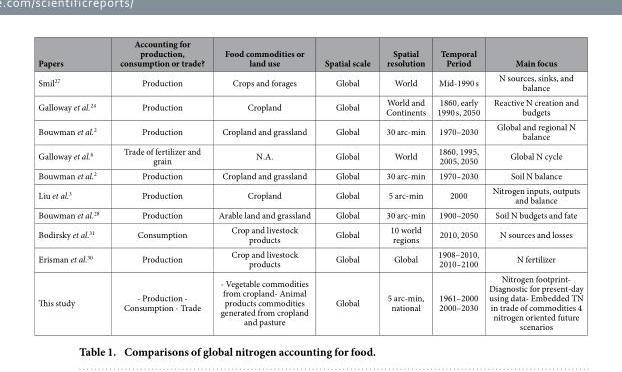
<table><thead><tr><td>Papers</td><td>Accounting for production, consumption or trade?</td><td>Food commodities or land use</td><td>Spatial scale</td><td>Spatial resolution</td><td>Temporal Period</td><td>Main focus</td></tr></thead><tbody><tr><td>Smil<sup>27</sup></td><td>Production</td><td>Crops and forages</td><td>Global</td><td>World</td><td>Mid-1990 s</td><td>N sources, sinks, and balance</td></tr><tr><td>Galloway et al.<sup>24</sup></td><td>Production</td><td>Cropland</td><td>Global</td><td>World and Continents</td><td>1860, early 1990 s, 2050</td><td>Reactive N creation and budgets</td></tr><tr><td>Bouwman et al.<sup>2</sup></td><td>Production</td><td>Cropland and grassland</td><td>Global</td><td>30 arc-min</td><td>1970–2030</td><td>Global and regional N balance</td></tr><tr><td>Galloway et al.<sup>6</sup></td><td>Trade of fertilizer and grain</td><td>N.A.</td><td>Global</td><td>World</td><td>1860, 1995, 2005, 2050</td><td>Global N cycle</td></tr><tr><td>Bouwman et al.<sup>2</sup></td><td>Production</td><td>Cropland and grassland</td><td>Global</td><td>30 arc-min</td><td>1970–2030</td><td>Soil N balance</td></tr><tr><td>Liu et al.<sup>3</sup></td><td>Production</td><td>Cropland</td><td>Global</td><td>5 arc-min</td><td>2000</td><td>Nitrogen inputs, outputs and balance</td></tr><tr><td>Bouwman et al.<sup>28</sup></td><td>Production</td><td>Arable land and grassland</td><td>Global</td><td>30 arc-min</td><td>1900–2050</td><td>Soil N budgets and fate</td></tr><tr><td>Bodirsky et al.<sup>31</sup></td><td>Consumption</td><td>Crop and livestock products</td><td>Global</td><td>10 world regions</td><td>2010, 2050</td><td>N sources and losses</td></tr><tr><td>Erisman et al.<sup>30</sup></td><td>Production</td><td>Crop and livestock products</td><td>Global</td><td>Global</td><td>1908–2010, 2010–2100</td><td>N fertilizer</td></tr><tr><td>This study</td><td>- Production - Consumption - Trade</td><td>- Vegetable commodities from cropland- Animal products commodities generated from cropland and pasture</td><td>Global</td><td>5 arc-min, national</td><td>1961–2000 2000–2030</td><td>Nitrogen footprint- Diagnostic for present-day using data- Embedded TN in trade of commodities 4 nitrogen oriented future scenarios</td></tr></tbody></table>